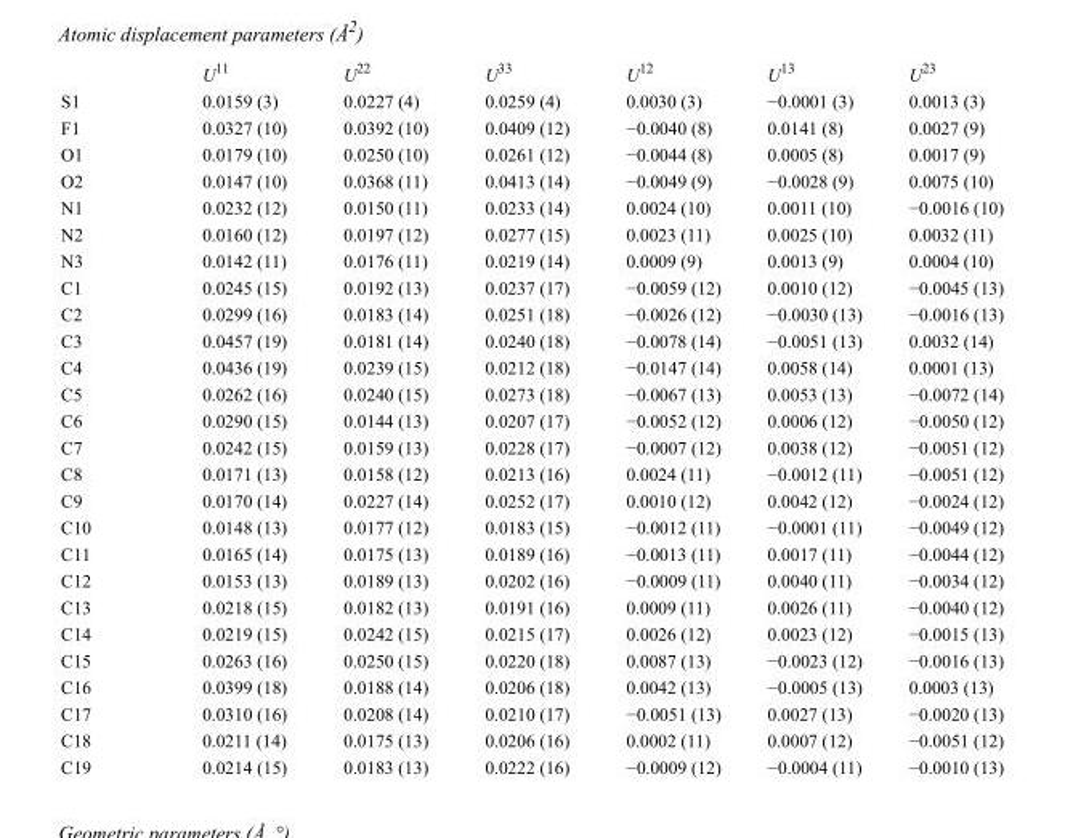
<table><thead><tr><td></td><td>U<sup>11</sup></td><td>U<sup>22</sup></td><td>U<sup>33</sup></td><td>U<sup>12</sup></td><td>U<sup>13</sup></td><td>U<sup>23</sup></td></tr></thead><tbody><tr><td>S1</td><td>0.0159 (3)</td><td>0.0227 (4)</td><td>0.0259 (4)</td><td>0.0030 (3)</td><td>−0.0001 (3)</td><td>0.0013 (3)</td></tr><tr><td>F1</td><td>0.0327 (10)</td><td>0.0392 (10)</td><td>0.0409 (12)</td><td>−0.0040 (8)</td><td>0.0141 (8)</td><td>0.0027 (9)</td></tr><tr><td>O1</td><td>0.0179 (10)</td><td>0.0250 (10)</td><td>0.0261 (12)</td><td>−0.0044 (8)</td><td>0.0005 (8)</td><td>0.0017 (9)</td></tr><tr><td>O2</td><td>0.0147 (10)</td><td>0.0368 (11)</td><td>0.0413 (14)</td><td>−0.0049 (9)</td><td>−0.0028 (9)</td><td>0.0075 (10)</td></tr><tr><td>N1</td><td>0.0232 (12)</td><td>0.0150 (11)</td><td>0.0233 (14)</td><td>0.0024 (10)</td><td>0.0011 (10)</td><td>−0.0016 (10)</td></tr><tr><td>N2</td><td>0.0160 (12)</td><td>0.0197 (12)</td><td>0.0277 (15)</td><td>0.0023 (11)</td><td>0.0025 (10)</td><td>0.0032 (11)</td></tr><tr><td>N3</td><td>0.0142 (11)</td><td>0.0176 (11)</td><td>0.0219 (14)</td><td>0.0009 (9)</td><td>0.0013 (9)</td><td>0.0004 (10)</td></tr><tr><td>C1</td><td>0.0245 (15)</td><td>0.0192 (13)</td><td>0.0237 (17)</td><td>−0.0059 (12)</td><td>0.0010 (12)</td><td>−0.0045 (13)</td></tr><tr><td>C2</td><td>0.0299 (16)</td><td>0.0183 (14)</td><td>0.0251 (18)</td><td>−0.0026 (12)</td><td>−0.0030 (13)</td><td>−0.0016 (13)</td></tr><tr><td>C3</td><td>0.0457 (19)</td><td>0.0181 (14)</td><td>0.0240 (18)</td><td>−0.0078 (14)</td><td>−0.0051 (13)</td><td>0.0032 (14)</td></tr><tr><td>C4</td><td>0.0436 (19)</td><td>0.0239 (15)</td><td>0.0212 (18)</td><td>−0.0147 (14)</td><td>0.0058 (14)</td><td>0.0001 (13)</td></tr><tr><td>C5</td><td>0.0262 (16)</td><td>0.0240 (15)</td><td>0.0273 (18)</td><td>−0.0067 (13)</td><td>0.0053 (13)</td><td>−0.0072 (14)</td></tr><tr><td>C6</td><td>0.0290 (15)</td><td>0.0144 (13)</td><td>0.0207 (17)</td><td>−0.0052 (12)</td><td>0.0006 (12)</td><td>−0.0050 (12)</td></tr><tr><td>C7</td><td>0.0242 (15)</td><td>0.0159 (13)</td><td>0.0228 (17)</td><td>−0.0007 (12)</td><td>0.0038 (12)</td><td>−0.0051 (12)</td></tr><tr><td>C8</td><td>0.0171 (13)</td><td>0.0158 (12)</td><td>0.0213 (16)</td><td>0.0024 (11)</td><td>−0.0012 (11)</td><td>−0.0051 (12)</td></tr><tr><td>C9</td><td>0.0170 (14)</td><td>0.0227 (14)</td><td>0.0252 (17)</td><td>0.0010 (12)</td><td>0.0042 (12)</td><td>−0.0024 (12)</td></tr><tr><td>C10</td><td>0.0148 (13)</td><td>0.0177 (12)</td><td>0.0183 (15)</td><td>−0.0012 (11)</td><td>−0.0001 (11)</td><td>−0.0049 (12)</td></tr><tr><td>C11</td><td>0.0165 (14)</td><td>0.0175 (13)</td><td>0.0189 (16)</td><td>−0.0013 (11)</td><td>0.0017 (11)</td><td>−0.0044 (12)</td></tr><tr><td>C12</td><td>0.0153 (13)</td><td>0.0189 (13)</td><td>0.0202 (16)</td><td>−0.0009 (11)</td><td>0.0040 (11)</td><td>−0.0034 (12)</td></tr><tr><td>C13</td><td>0.0218 (15)</td><td>0.0182 (13)</td><td>0.0191 (16)</td><td>0.0009 (11)</td><td>0.0026 (11)</td><td>−0.0040 (12)</td></tr><tr><td>C14</td><td>0.0219 (15)</td><td>0.0242 (15)</td><td>0.0215 (17)</td><td>0.0026 (12)</td><td>0.0023 (12)</td><td>−0.0015 (13)</td></tr><tr><td>C15</td><td>0.0263 (16)</td><td>0.0250 (15)</td><td>0.0220 (18)</td><td>0.0087 (13)</td><td>−0.0023 (12)</td><td>−0.0016 (13)</td></tr><tr><td>C16</td><td>0.0399 (18)</td><td>0.0188 (14)</td><td>0.0206 (18)</td><td>0.0042 (13)</td><td>−0.0005 (13)</td><td>0.0003 (13)</td></tr><tr><td>C17</td><td>0.0310 (16)</td><td>0.0208 (14)</td><td>0.0210 (17)</td><td>−0.0051 (13)</td><td>0.0027 (13)</td><td>−0.0020 (13)</td></tr><tr><td>C18</td><td>0.0211 (14)</td><td>0.0175 (13)</td><td>0.0206 (16)</td><td>0.0002 (11)</td><td>0.0007 (12)</td><td>−0.0051 (12)</td></tr><tr><td>C19</td><td>0.0214 (15)</td><td>0.0183 (13)</td><td>0.0222 (16)</td><td>−0.0009 (12)</td><td>−0.0004 (11)</td><td>−0.0010 (13)</td></tr></tbody></table>